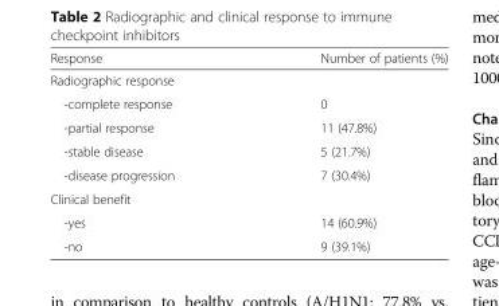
<table><thead><tr><td>Response</td><td>Number of patients (%)</td></tr></thead><tbody><tr><td colspan="2">Radiographic response</td></tr><tr><td>-complete response</td><td>0</td></tr><tr><td>-partial response</td><td>11 (47.8%)</td></tr><tr><td>-stable disease</td><td>5 (21.7%)</td></tr><tr><td>-disease progression</td><td>7 (30.4%)</td></tr><tr><td colspan="2">Clinical benefit</td></tr><tr><td>-yes</td><td>14 (60.9%)</td></tr><tr><td>-no</td><td>9 (39.1%)</td></tr></tbody></table>